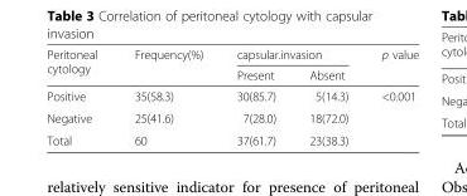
<table><thead><tr><td rowspan="2">Peritoneal cytology</td><td rowspan="2">Frequency(%)</td><td colspan="2">capsular.invasion</td><td rowspan="2">p value</td></tr><tr><td>Present</td><td>Absent</td></tr></thead><tbody><tr><td>Positive</td><td>35(58.3)</td><td>30(85.7)</td><td>5(14.3)</td><td rowspan="3">&lt;0.001</td></tr><tr><td>Negative</td><td>25(41.6)</td><td>7(28.0)</td><td>18(72.0)</td></tr><tr><td>Total</td><td>60</td><td>37(61.7)</td><td>23(38.3)</td></tr></tbody></table>